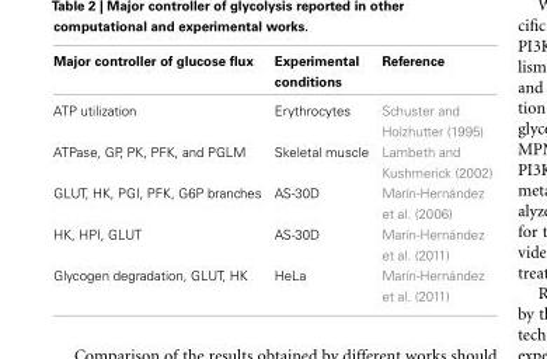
<table><thead><tr><td>Major controller of glucose flux</td><td>Experimental conditions</td><td>Reference</td></tr></thead><tbody><tr><td>ATP utilization</td><td>Erythrocytes</td><td>Schuster and Holzhutter (1995)</td></tr><tr><td>ATPase, GP, PK, PFK, and PGLM</td><td>Skeletal muscle</td><td>Lambeth and Kushmerick (2002)</td></tr><tr><td>GLUT, HK, PGI, PFK, G6P branches</td><td>AS-30D</td><td>Marín-Hernández et al. (2006)</td></tr><tr><td>HK, HPI, GLUT</td><td>AS-30D</td><td>Marín-Hernández et al. (2011)</td></tr><tr><td>Glycogen degradation, GLUT, HK</td><td>HeLa</td><td>Marín-Hernández et al. (2011)</td></tr></tbody></table>